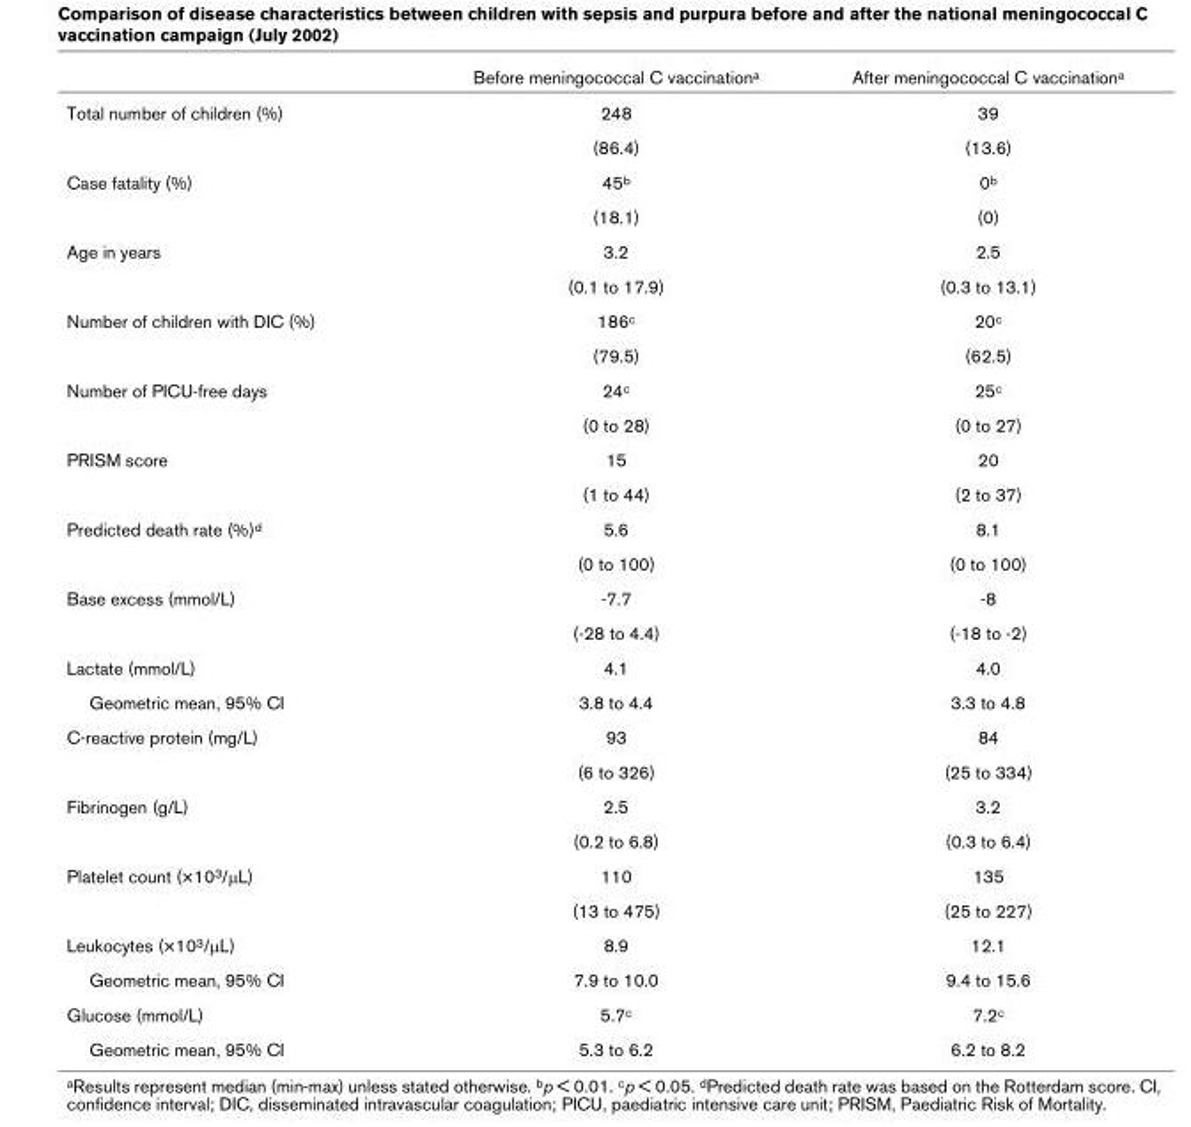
<table><thead><tr><td></td><td>Before meningococcal C vaccination<sup>a</sup></td><td>After meningococcal C vaccination<sup>a</sup></td></tr></thead><tbody><tr><td rowspan="2">Total number of children (%)</td><td>248</td><td>39</td></tr><tr><td>(86.4)</td><td>(13.6)</td></tr><tr><td rowspan="2">Case fatality (%)</td><td>45<sup>b</sup></td><td>0<sup>b</sup></td></tr><tr><td>(18.1)</td><td>(0)</td></tr><tr><td rowspan="2">Age in years</td><td>3.2</td><td>2.5</td></tr><tr><td>(0.1 to 17.9)</td><td>(0.3 to 13.1)</td></tr><tr><td rowspan="2">Number of children with DIC (%)</td><td>186<sup>c</sup></td><td>20<sup>c</sup></td></tr><tr><td>(79.5)</td><td>(62.5)</td></tr><tr><td rowspan="2">Number of PICU-free days</td><td>24<sup>c</sup></td><td>25<sup>c</sup></td></tr><tr><td>(0 to 28)</td><td>(0 to 27)</td></tr><tr><td rowspan="2">PRISM score</td><td>15</td><td>20</td></tr><tr><td>(1 to 44)</td><td>(2 to 37)</td></tr><tr><td rowspan="2">Predicted death rate (%)<sup>d</sup></td><td>5.6</td><td>8.1</td></tr><tr><td>(0 to 100)</td><td>(0 to 100)</td></tr><tr><td rowspan="2">Base excess (mmol/L)</td><td>-7.7</td><td>-8</td></tr><tr><td>(-28 to 4.4)</td><td>(-18 to -2)</td></tr><tr><td>Lactate (mmol/L)</td><td>4.1</td><td>4.0</td></tr><tr><td>Geometric mean, 95% CI</td><td>3.8 to 4.4</td><td>3.3 to 4.8</td></tr><tr><td rowspan="2">C-reactive protein (mg/L)</td><td>93</td><td>84</td></tr><tr><td>(6 to 326)</td><td>(25 to 334)</td></tr><tr><td rowspan="2">Fibrinogen (g/L)</td><td>2.5</td><td>3.2</td></tr><tr><td>(0.2 to 6.8)</td><td>(0.3 to 6.4)</td></tr><tr><td rowspan="2">Platelet count (×10<sup>3</sup>/μL)</td><td>110</td><td>135</td></tr><tr><td>(13 to 475)</td><td>(25 to 227)</td></tr><tr><td>Leukocytes (×10<sup>3</sup>/μL)</td><td>8.9</td><td>12.1</td></tr><tr><td>Geometric mean, 95% CI</td><td>7.9 to 10.0</td><td>9.4 to 15.6</td></tr><tr><td>Glucose (mmol/L)</td><td>5.7<sup>c</sup></td><td>7.2<sup>c</sup></td></tr><tr><td>Geometric mean, 95% CI</td><td>5.3 to 6.2</td><td>6.2 to 8.2</td></tr></tbody></table>